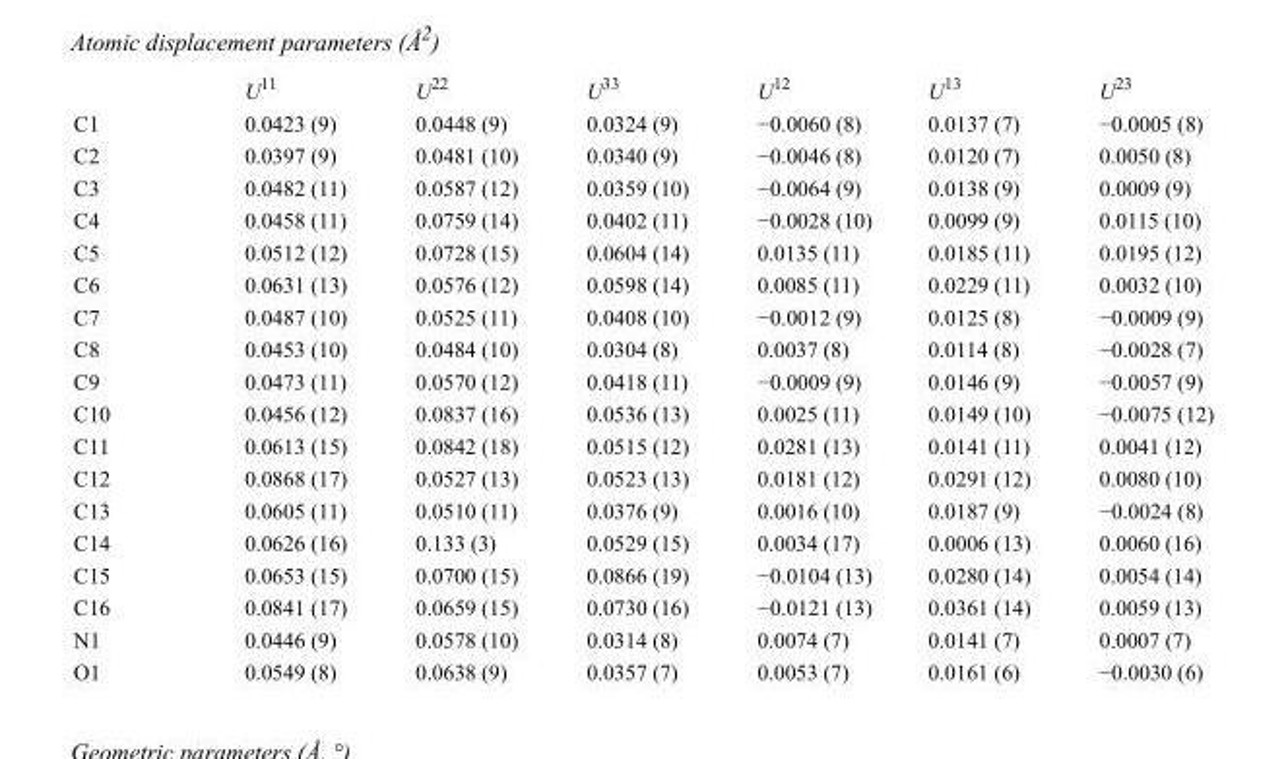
<table><thead><tr><td></td><td>U<sup>11</sup></td><td>U<sup>22</sup></td><td>U<sup>33</sup></td><td>U<sup>12</sup></td><td>U<sup>13</sup></td><td>U<sup>23</sup></td></tr></thead><tbody><tr><td>C1</td><td>0.0423 (9)</td><td>0.0448 (9)</td><td>0.0324 (9)</td><td>−0.0060 (8)</td><td>0.0137 (7)</td><td>−0.0005 (8)</td></tr><tr><td>C2</td><td>0.0397 (9)</td><td>0.0481 (10)</td><td>0.0340 (9)</td><td>−0.0046 (8)</td><td>0.0120 (7)</td><td>0.0050 (8)</td></tr><tr><td>C3</td><td>0.0482 (11)</td><td>0.0587 (12)</td><td>0.0359 (10)</td><td>−0.0064 (9)</td><td>0.0138 (9)</td><td>0.0009 (9)</td></tr><tr><td>C4</td><td>0.0458 (11)</td><td>0.0759 (14)</td><td>0.0402 (11)</td><td>−0.0028 (10)</td><td>0.0099 (9)</td><td>0.0115 (10)</td></tr><tr><td>C5</td><td>0.0512 (12)</td><td>0.0728 (15)</td><td>0.0604 (14)</td><td>0.0135 (11)</td><td>0.0185 (11)</td><td>0.0195 (12)</td></tr><tr><td>C6</td><td>0.0631 (13)</td><td>0.0576 (12)</td><td>0.0598 (14)</td><td>0.0085 (11)</td><td>0.0229 (11)</td><td>0.0032 (10)</td></tr><tr><td>C7</td><td>0.0487 (10)</td><td>0.0525 (11)</td><td>0.0408 (10)</td><td>−0.0012 (9)</td><td>0.0125 (8)</td><td>−0.0009 (9)</td></tr><tr><td>C8</td><td>0.0453 (10)</td><td>0.0484 (10)</td><td>0.0304 (8)</td><td>0.0037 (8)</td><td>0.0114 (8)</td><td>−0.0028 (7)</td></tr><tr><td>C9</td><td>0.0473 (11)</td><td>0.0570 (12)</td><td>0.0418 (11)</td><td>−0.0009 (9)</td><td>0.0146 (9)</td><td>−0.0057 (9)</td></tr><tr><td>C10</td><td>0.0456 (12)</td><td>0.0837 (16)</td><td>0.0536 (13)</td><td>0.0025 (11)</td><td>0.0149 (10)</td><td>−0.0075 (12)</td></tr><tr><td>C11</td><td>0.0613 (15)</td><td>0.0842 (18)</td><td>0.0515 (12)</td><td>0.0281 (13)</td><td>0.0141 (11)</td><td>0.0041 (12)</td></tr><tr><td>C12</td><td>0.0868 (17)</td><td>0.0527 (13)</td><td>0.0523 (13)</td><td>0.0181 (12)</td><td>0.0291 (12)</td><td>0.0080 (10)</td></tr><tr><td>C13</td><td>0.0605 (11)</td><td>0.0510 (11)</td><td>0.0376 (9)</td><td>0.0016 (10)</td><td>0.0187 (9)</td><td>−0.0024 (8)</td></tr><tr><td>C14</td><td>0.0626 (16)</td><td>0.133 (3)</td><td>0.0529 (15)</td><td>0.0034 (17)</td><td>0.0006 (13)</td><td>0.0060 (16)</td></tr><tr><td>C15</td><td>0.0653 (15)</td><td>0.0700 (15)</td><td>0.0866 (19)</td><td>−0.0104 (13)</td><td>0.0280 (14)</td><td>0.0054 (14)</td></tr><tr><td>C16</td><td>0.0841 (17)</td><td>0.0659 (15)</td><td>0.0730 (16)</td><td>−0.0121 (13)</td><td>0.0361 (14)</td><td>0.0059 (13)</td></tr><tr><td>N1</td><td>0.0446 (9)</td><td>0.0578 (10)</td><td>0.0314 (8)</td><td>0.0074 (7)</td><td>0.0141 (7)</td><td>0.0007 (7)</td></tr><tr><td>O1</td><td>0.0549 (8)</td><td>0.0638 (9)</td><td>0.0357 (7)</td><td>0.0053 (7)</td><td>0.0161 (6)</td><td>−0.0030 (6)</td></tr></tbody></table>